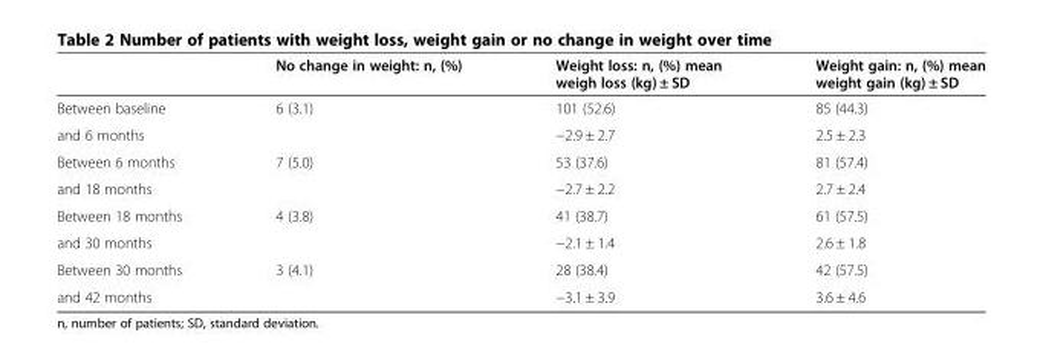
<table><thead><tr><td></td><td>No change in weight: n, (%)</td><td>Weight loss: n, (%) mean weigh loss (kg) ± SD</td><td>Weight gain: n, (%) mean weight gain (kg) ± SD</td></tr></thead><tbody><tr><td>Between baseline</td><td>6 (3.1)</td><td>101 (52.6)</td><td>85 (44.3)</td></tr><tr><td>and 6 months</td><td></td><td>−2.9 ± 2.7</td><td>2.5 ± 2.3</td></tr><tr><td>Between 6 months</td><td>7 (5.0)</td><td>53 (37.6)</td><td>81 (57.4)</td></tr><tr><td>and 18 months</td><td></td><td>−2.7 ± 2.2</td><td>2.7 ± 2.4</td></tr><tr><td>Between 18 months</td><td>4 (3.8)</td><td>41 (38.7)</td><td>61 (57.5)</td></tr><tr><td>and 30 months</td><td></td><td>−2.1 ± 1.4</td><td>2.6 ± 1.8</td></tr><tr><td>Between 30 months</td><td>3 (4.1)</td><td>28 (38.4)</td><td>42 (57.5)</td></tr><tr><td>and 42 months</td><td></td><td>−3.1 ± 3.9</td><td>3.6 ± 4.6</td></tr></tbody></table>